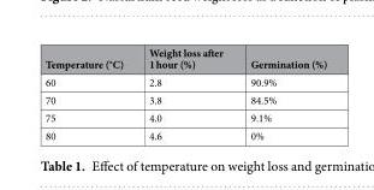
<table><thead><tr><td>Temperature (°C)</td><td>Weight loss after 1 hour (%)</td><td>Germination (%)</td></tr></thead><tbody><tr><td>60</td><td>2.8</td><td>90.9%</td></tr><tr><td>70</td><td>3.8</td><td>84.5%</td></tr><tr><td>75</td><td>4.0</td><td>9.1%</td></tr><tr><td>80</td><td>4.6</td><td>0%</td></tr></tbody></table>